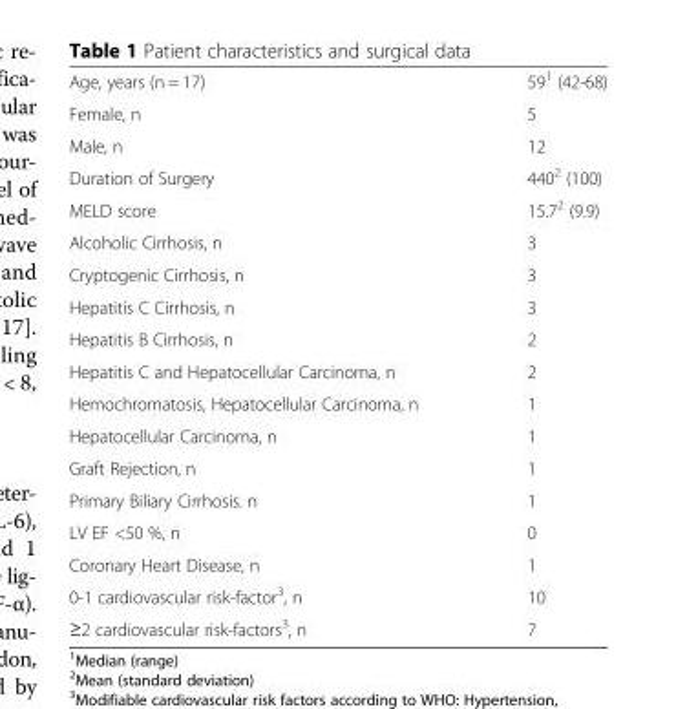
<table><tbody><tr><td>Age, years (n = 17)</td><td>59<sup>1</sup> (42-68)</td></tr><tr><td>Female, n</td><td>5</td></tr><tr><td>Male, n</td><td>12</td></tr><tr><td>Duration of Surgery</td><td>440<sup>2</sup> (100)</td></tr><tr><td>MELD score</td><td>15.7<sup>2</sup> (9.9)</td></tr><tr><td>Alcoholic Cirrhosis, n</td><td>3</td></tr><tr><td>Cryptogenic Cirrhosis, n</td><td>3</td></tr><tr><td>Hepatitis C Cirrhosis, n</td><td>3</td></tr><tr><td>Hepatitis B Cirrhosis, n</td><td>2</td></tr><tr><td>Hepatitis C and Hepatocellular Carcinoma, n</td><td>2</td></tr><tr><td>Hemochromatosis, Hepatocellular Carcinoma, n</td><td>1</td></tr><tr><td>Hepatocellular Carcinoma, n</td><td>1</td></tr><tr><td>Graft Rejection, n</td><td>1</td></tr><tr><td>Primary Biliary Cirrhosis. n</td><td>1</td></tr><tr><td>LV EF &lt;50 %, n</td><td>0</td></tr><tr><td>Coronary Heart Disease, n</td><td>1</td></tr><tr><td>0-1 cardiovascular risk-factor<sup>3</sup>, n</td><td>10</td></tr><tr><td>≥2 cardiovascular risk-factors<sup>3</sup>, n</td><td>7</td></tr></tbody></table>